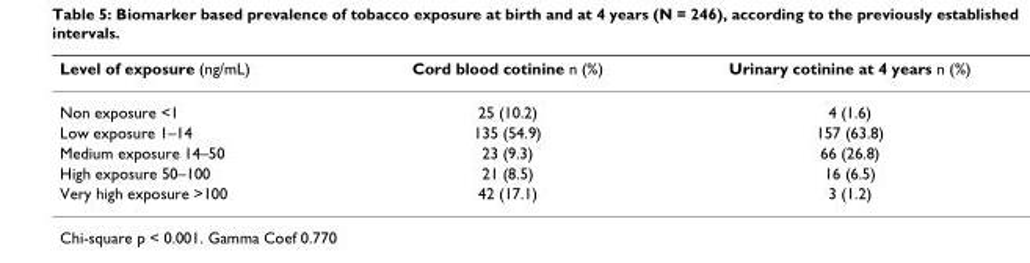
<table><thead><tr><td>Level of exposure (ng/mL)</td><td>Cord blood cotinine n (%)</td><td>Urinary cotinine at 4 years n (%)</td></tr></thead><tbody><tr><td>Non exposure &lt;1</td><td>25 (10.2)</td><td>4 (1.6)</td></tr><tr><td>Low exposure 1–14</td><td>135 (54.9)</td><td>157 (63.8)</td></tr><tr><td>Medium exposure 14–50</td><td>23 (9.3)</td><td>66 (26.8)</td></tr><tr><td>High exposure 50–100</td><td>21 (8.5)</td><td>16 (6.5)</td></tr><tr><td>Very high exposure &gt;100</td><td>42 (17.1)</td><td>3 (1.2)</td></tr></tbody></table>